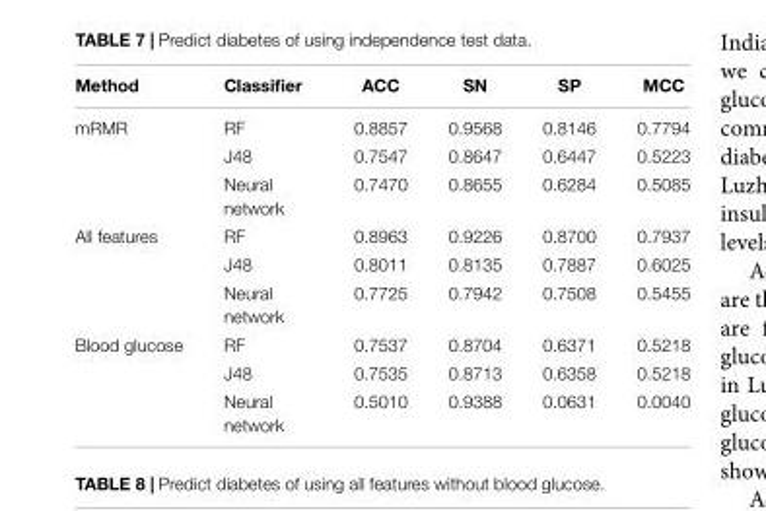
<table><thead><tr><td>Method</td><td>Classifier</td><td>ACC</td><td>SN</td><td>SP</td><td>MCC</td></tr></thead><tbody><tr><td rowspan="3">mRMR</td><td>RF</td><td>0.8857</td><td>0.9568</td><td>0.8146</td><td>0.7794</td></tr><tr><td>J48</td><td>0.7547</td><td>0.8647</td><td>0.6447</td><td>0.5223</td></tr><tr><td>Neural network</td><td>0.7470</td><td>0.8655</td><td>0.6284</td><td>0.5085</td></tr><tr><td rowspan="3">All features</td><td>RF</td><td>0.8963</td><td>0.9226</td><td>0.8700</td><td>0.7937</td></tr><tr><td>J48</td><td>0.8011</td><td>0.8135</td><td>0.7887</td><td>0.6025</td></tr><tr><td>Neural network</td><td>0.7725</td><td>0.7942</td><td>0.7508</td><td>0.5455</td></tr><tr><td rowspan="3">Blood glucose</td><td>RF</td><td>0.7537</td><td>0.8704</td><td>0.6371</td><td>0.5218</td></tr><tr><td>J48</td><td>0.7535</td><td>0.8713</td><td>0.6358</td><td>0.5218</td></tr><tr><td>Neural network</td><td>0.5010</td><td>0.9388</td><td>0.0631</td><td>0.0040</td></tr></tbody></table>